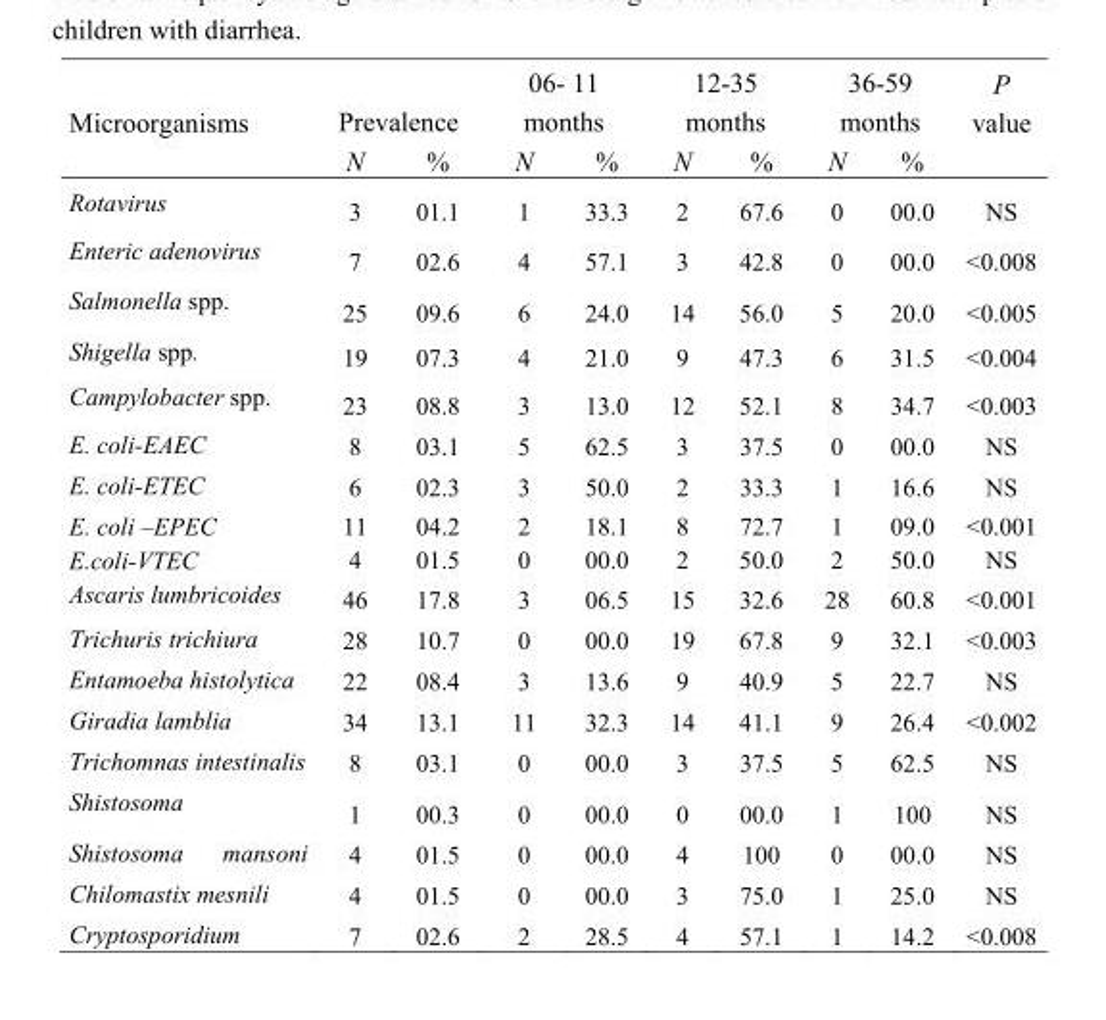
<table><thead><tr><td rowspan="2">Microorganisms</td><td colspan="2">Prevalence</td><td colspan="2">06- 11 months</td><td colspan="2">12-35 months</td><td colspan="2">36-59 months</td><td rowspan="2">P value</td></tr><tr><td>N</td><td>%</td><td>N</td><td>%</td><td>N</td><td>%</td><td>N</td><td>%</td></tr></thead><tbody><tr><td>Rotavirus</td><td>3</td><td>01.1</td><td>1</td><td>33.3</td><td>2</td><td>67.6</td><td>0</td><td>00.0</td><td>NS</td></tr><tr><td>Enteric adenovirus</td><td>7</td><td>02.6</td><td>4</td><td>57.1</td><td>3</td><td>42.8</td><td>0</td><td>00.0</td><td>&lt;0.008</td></tr><tr><td>Salmonella spp.</td><td>25</td><td>09.6</td><td>6</td><td>24.0</td><td>14</td><td>56.0</td><td>5</td><td>20.0</td><td>&lt;0.005</td></tr><tr><td>Shigella spp.</td><td>19</td><td>07.3</td><td>4</td><td>21.0</td><td>9</td><td>47.3</td><td>6</td><td>31.5</td><td>&lt;0.004</td></tr><tr><td>Campylobacter spp.</td><td>23</td><td>08.8</td><td>3</td><td>13.0</td><td>12</td><td>52.1</td><td>8</td><td>34.7</td><td>&lt;0.003</td></tr><tr><td>E. coli-EAEC</td><td>8</td><td>03.1</td><td>5</td><td>62.5</td><td>3</td><td>37.5</td><td>0</td><td>00.0</td><td>NS</td></tr><tr><td>E. coli-ETEC</td><td>6</td><td>02.3</td><td>3</td><td>50.0</td><td>2</td><td>33.3</td><td>1</td><td>16.6</td><td>NS</td></tr><tr><td>E. coli –EPEC</td><td>11</td><td>04.2</td><td>2</td><td>18.1</td><td>8</td><td>72.7</td><td>1</td><td>09.0</td><td>&lt;0.001</td></tr><tr><td>E.coli-VTEC</td><td>4</td><td>01.5</td><td>0</td><td>00.0</td><td>2</td><td>50.0</td><td>2</td><td>50.0</td><td>NS</td></tr><tr><td>Ascaris lumbricoides</td><td>46</td><td>17.8</td><td>3</td><td>06.5</td><td>15</td><td>32.6</td><td>28</td><td>60.8</td><td>&lt;0.001</td></tr><tr><td>Trichuris trichiura</td><td>28</td><td>10.7</td><td>0</td><td>00.0</td><td>19</td><td>67.8</td><td>9</td><td>32.1</td><td>&lt;0.003</td></tr><tr><td>Entamoeba histolytica</td><td>22</td><td>08.4</td><td>3</td><td>13.6</td><td>9</td><td>40.9</td><td>5</td><td>22.7</td><td>NS</td></tr><tr><td>Giradia lamblia</td><td>34</td><td>13.1</td><td>11</td><td>32.3</td><td>14</td><td>41.1</td><td>9</td><td>26.4</td><td>&lt;0.002</td></tr><tr><td>Trichomnas intestinalis</td><td>8</td><td>03.1</td><td>0</td><td>00.0</td><td>3</td><td>37.5</td><td>5</td><td>62.5</td><td>NS</td></tr><tr><td>Shistosoma</td><td>1</td><td>00.3</td><td>0</td><td>00.0</td><td>0</td><td>00.0</td><td>1</td><td>100</td><td>NS</td></tr><tr><td>Shistosoma mansoni</td><td>4</td><td>01.5</td><td>0</td><td>00.0</td><td>4</td><td>100</td><td>0</td><td>00.0</td><td>NS</td></tr><tr><td>Chilomastix mesnili</td><td>4</td><td>01.5</td><td>0</td><td>00.0</td><td>3</td><td>75.0</td><td>1</td><td>25.0</td><td>NS</td></tr><tr><td>Cryptosporidium</td><td>7</td><td>02.6</td><td>2</td><td>28.5</td><td>4</td><td>57.1</td><td>1</td><td>14.2</td><td>&lt;0.008</td></tr></tbody></table>